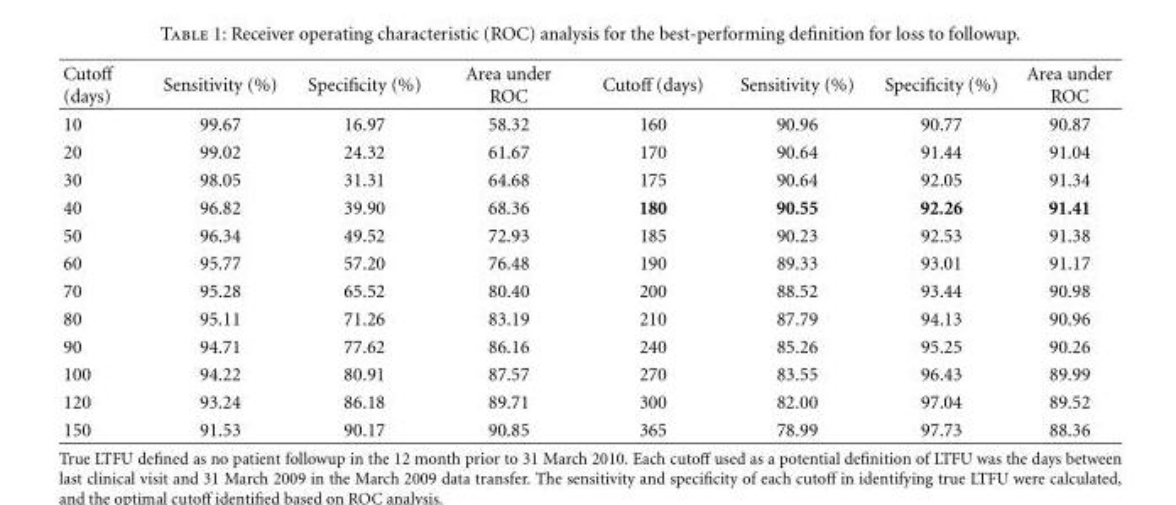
<table><thead><tr><td>Cutoff (days)</td><td>Sensitivity (%)</td><td>Specificity (%)</td><td>Area under ROC</td><td>Cutoff (days)</td><td>Sensitivity (%)</td><td>Specificity (%)</td><td>Area under ROC</td></tr></thead><tbody><tr><td>10</td><td>99.67</td><td>16.97</td><td>58.32</td><td>160</td><td>90.96</td><td>90.77</td><td>90.87</td></tr><tr><td>20</td><td>99.02</td><td>24.32</td><td>61.67</td><td>170</td><td>90.64</td><td>91.44</td><td>91.04</td></tr><tr><td>30</td><td>98.05</td><td>31.31</td><td>64.68</td><td>175</td><td>90.64</td><td>92.05</td><td>91.34</td></tr><tr><td>40</td><td>96.82</td><td>39.90</td><td>68.36</td><td>180</td><td>90.55</td><td>92.26</td><td>91.41</td></tr><tr><td>50</td><td>96.34</td><td>49.52</td><td>72.93</td><td>185</td><td>90.23</td><td>92.53</td><td>91.38</td></tr><tr><td>60</td><td>95.77</td><td>57.20</td><td>76.48</td><td>190</td><td>89.33</td><td>93.01</td><td>91.17</td></tr><tr><td>70</td><td>95.28</td><td>65.52</td><td>80.40</td><td>200</td><td>88.52</td><td>93.44</td><td>90.98</td></tr><tr><td>80</td><td>95.11</td><td>71.26</td><td>83.19</td><td>210</td><td>87.79</td><td>94.13</td><td>90.96</td></tr><tr><td>90</td><td>94.71</td><td>77.62</td><td>86.16</td><td>240</td><td>85.26</td><td>95.25</td><td>90.26</td></tr><tr><td>100</td><td>94.22</td><td>80.91</td><td>87.57</td><td>270</td><td>83.55</td><td>96.43</td><td>89.99</td></tr><tr><td>120</td><td>93.24</td><td>86.18</td><td>89.71</td><td>300</td><td>82.00</td><td>97.04</td><td>89.52</td></tr><tr><td>150</td><td>91.53</td><td>90.17</td><td>90.85</td><td>365</td><td>78.99</td><td>97.73</td><td>88.36</td></tr></tbody></table>